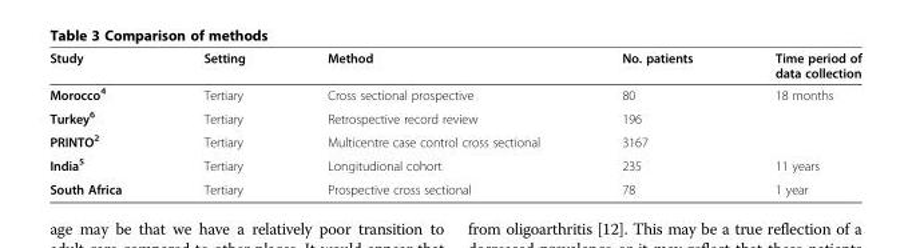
<table><thead><tr><td>Study</td><td>Setting</td><td>Method</td><td>No. patients</td><td>Time period of data collection</td></tr></thead><tbody><tr><td>Morocco<sup>4</sup></td><td>Tertiary</td><td>Cross sectional prospective</td><td>80</td><td>18 months</td></tr><tr><td>Turkey<sup>6</sup></td><td>Tertiary</td><td>Retrospective record review</td><td>196</td><td></td></tr><tr><td>PRINTO<sup>2</sup></td><td>Tertiary</td><td>Multicentre case control cross sectional</td><td>3167</td><td></td></tr><tr><td>India<sup>5</sup></td><td>Tertiary</td><td>Longitudional cohort</td><td>235</td><td>11 years</td></tr><tr><td>South Africa</td><td>Tertiary</td><td>Prospective cross sectional</td><td>78</td><td>1 year</td></tr></tbody></table>